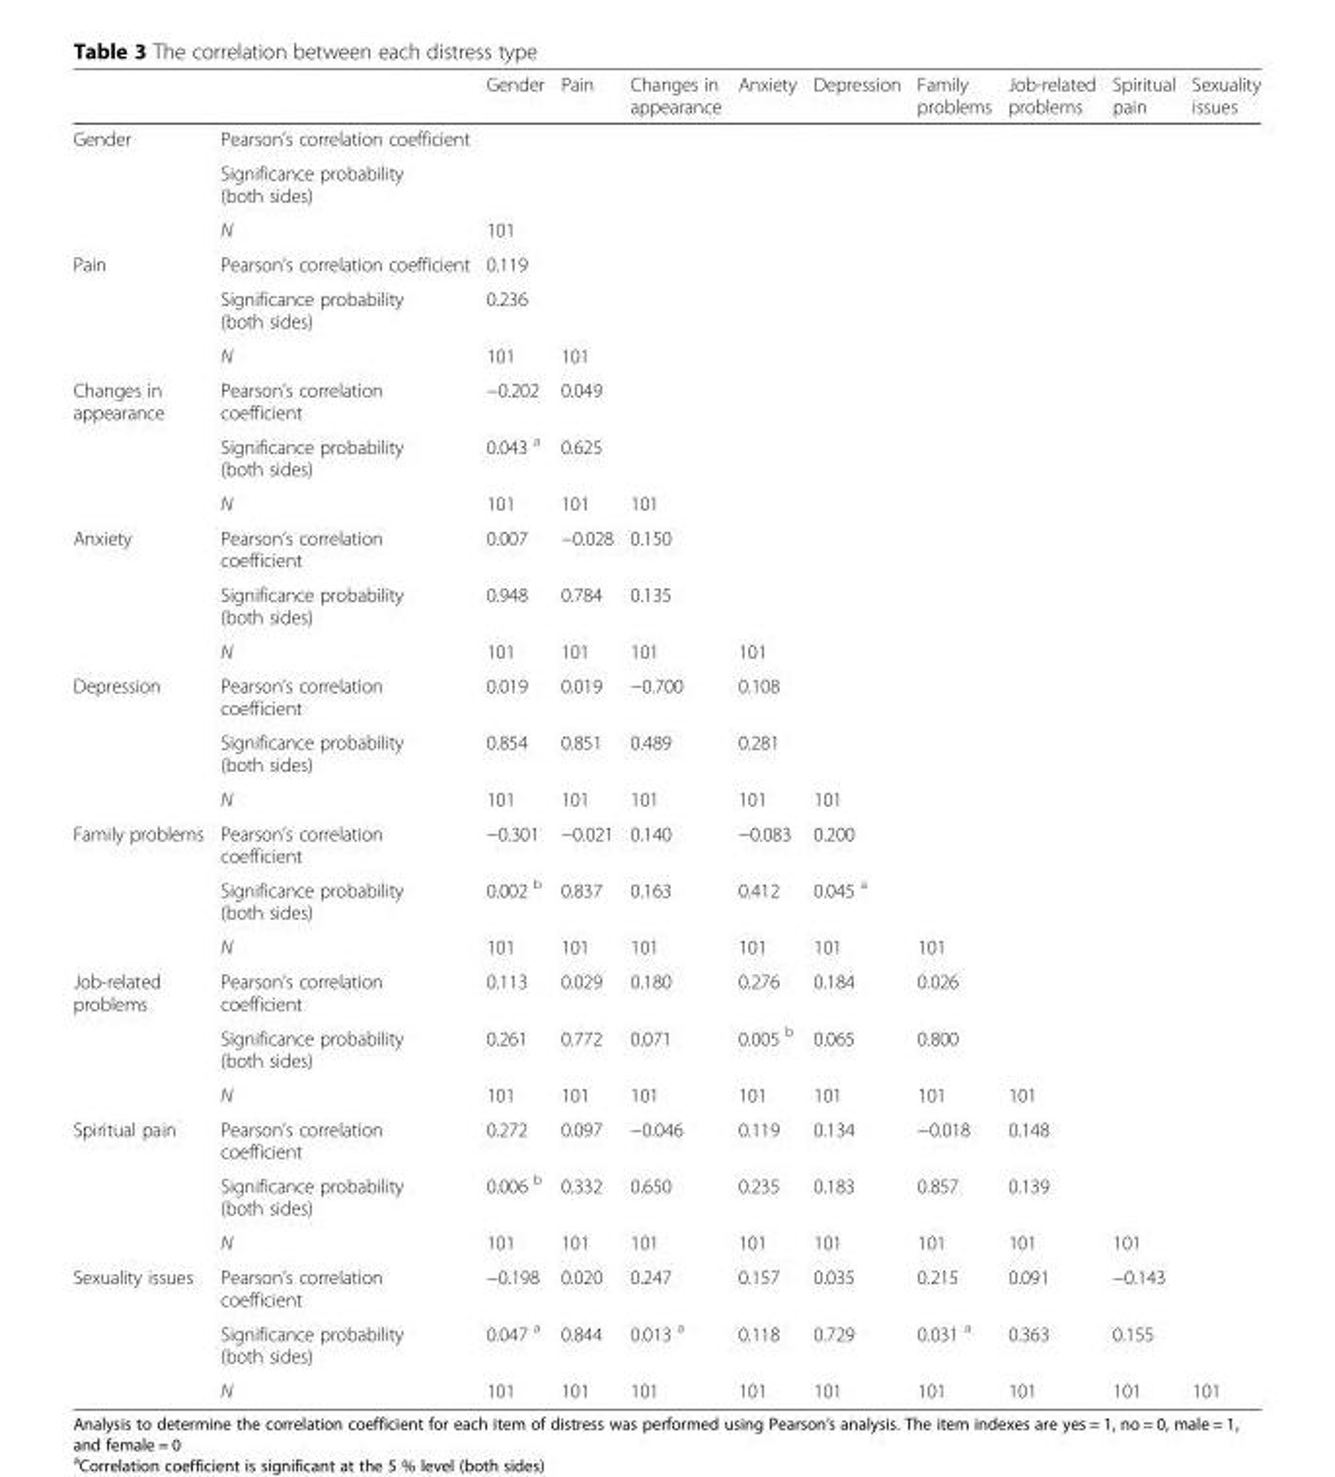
<table><thead><tr><td></td><td></td><td>Gender</td><td>Pain</td><td>Changes in appearance</td><td>Anxiety</td><td>Depression</td><td>Family problems</td><td>Job-related problems</td><td>Spiritual pain</td><td>Sexuality issues</td></tr></thead><tbody><tr><td rowspan="3">Gender</td><td>Pearson’s correlation coefficient</td><td></td><td></td><td></td><td></td><td></td><td></td><td></td><td></td><td></td></tr><tr><td>Significance probability (both sides)</td><td></td><td></td><td></td><td></td><td></td><td></td><td></td><td></td><td></td></tr><tr><td>N</td><td>101</td><td></td><td></td><td></td><td></td><td></td><td></td><td></td><td></td></tr><tr><td rowspan="3">Pain</td><td>Pearson’s correlation coefficient</td><td>0.119</td><td></td><td></td><td></td><td></td><td></td><td></td><td></td><td></td></tr><tr><td>Significance probability (both sides)</td><td>0.236</td><td></td><td></td><td></td><td></td><td></td><td></td><td></td><td></td></tr><tr><td>N</td><td>101</td><td>101</td><td></td><td></td><td></td><td></td><td></td><td></td><td></td></tr><tr><td rowspan="3">Changes in appearance</td><td>Pearson’s correlation coefficient</td><td>−0.202</td><td>0.049</td><td></td><td></td><td></td><td></td><td></td><td></td><td></td></tr><tr><td>Significance probability (both sides)</td><td>0.043 <sup>a</sup></td><td>0.625</td><td></td><td></td><td></td><td></td><td></td><td></td><td></td></tr><tr><td>N</td><td>101</td><td>101</td><td>101</td><td></td><td></td><td></td><td></td><td></td><td></td></tr><tr><td rowspan="3">Anxiety</td><td>Pearson’s correlation coefficient</td><td>0.007</td><td>−0.028</td><td>0.150</td><td></td><td></td><td></td><td></td><td></td><td></td></tr><tr><td>Significance probability (both sides)</td><td>0.948</td><td>0.784</td><td>0.135</td><td></td><td></td><td></td><td></td><td></td><td></td></tr><tr><td>N</td><td>101</td><td>101</td><td>101</td><td>101</td><td></td><td></td><td></td><td></td><td></td></tr><tr><td rowspan="3">Depression</td><td>Pearson’s correlation coefficient</td><td>0.019</td><td>0.019</td><td>−0.700</td><td>0.108</td><td></td><td></td><td></td><td></td><td></td></tr><tr><td>Significance probability (both sides)</td><td>0.854</td><td>0.851</td><td>0.489</td><td>0.281</td><td></td><td></td><td></td><td></td><td></td></tr><tr><td>N</td><td>101</td><td>101</td><td>101</td><td>101</td><td>101</td><td></td><td></td><td></td><td></td></tr><tr><td rowspan="3">Family problems</td><td>Pearson’s correlation coefficient</td><td>−0.301</td><td>−0.021</td><td>0.140</td><td>−0.083</td><td>0.200</td><td></td><td></td><td></td><td></td></tr><tr><td>Significance probability (both sides)</td><td>0.002 <sup>b</sup></td><td>0.837</td><td>0.163</td><td>0.412</td><td>0.045 <sup>a</sup></td><td></td><td></td><td></td><td></td></tr><tr><td>N</td><td>101</td><td>101</td><td>101</td><td>101</td><td>101</td><td>101</td><td></td><td></td><td></td></tr><tr><td rowspan="3">Job-related problems</td><td>Pearson’s correlation coefficient</td><td>0.113</td><td>0.029</td><td>0.180</td><td>0.276</td><td>0.184</td><td>0.026</td><td></td><td></td><td></td></tr><tr><td>Significance probability (both sides)</td><td>0.261</td><td>0.772</td><td>0.071</td><td>0.005 <sup>b</sup></td><td>0.065</td><td>0.800</td><td></td><td></td><td></td></tr><tr><td>N</td><td>101</td><td>101</td><td>101</td><td>101</td><td>101</td><td>101</td><td>101</td><td></td><td></td></tr><tr><td rowspan="3">Spiritual pain</td><td>Pearson’s correlation coefficient</td><td>0.272</td><td>0.097</td><td>−0.046</td><td>0.119</td><td>0.134</td><td>−0.018</td><td>0.148</td><td></td><td></td></tr><tr><td>Significance probability (both sides)</td><td>0.006 <sup>b</sup></td><td>0.332</td><td>0.650</td><td>0.235</td><td>0.183</td><td>0.857</td><td>0.139</td><td></td><td></td></tr><tr><td>N</td><td>101</td><td>101</td><td>101</td><td>101</td><td>101</td><td>101</td><td>101</td><td>101</td><td></td></tr><tr><td rowspan="3">Sexuality issues</td><td>Pearson’s correlation coefficient</td><td>−0.198</td><td>0.020</td><td>0.247</td><td>0.157</td><td>0.035</td><td>0.215</td><td>0.091</td><td>−0.143</td><td></td></tr><tr><td>Significance probability (both sides)</td><td>0.047 <sup>a</sup></td><td>0.844</td><td>0.013 <sup>a</sup></td><td>0.118</td><td>0.729</td><td>0.031 <sup>a</sup></td><td>0.363</td><td>0.155</td><td></td></tr><tr><td>N</td><td>101</td><td>101</td><td>101</td><td>101</td><td>101</td><td>101</td><td>101</td><td>101</td><td>101</td></tr></tbody></table>